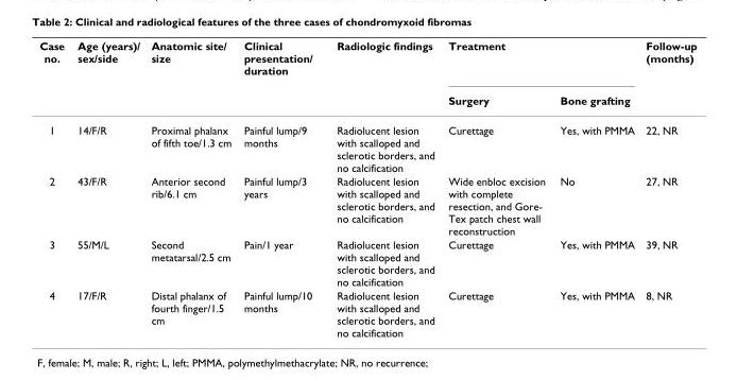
<table><thead><tr><td rowspan="2">Case no.</td><td rowspan="2">Age (years)/ sex/side</td><td rowspan="2">Anatomic site/ size</td><td rowspan="2">Clinical presentation/ duration</td><td rowspan="2">Radiologic findings</td><td colspan="2">Treatment</td><td rowspan="2">Follow-up (months)</td></tr><tr><td>Surgery</td><td>Bone grafting</td></tr></thead><tbody><tr><td>1</td><td>14/F/R</td><td>Proximal phalanx of fifth toe/1.3 cm</td><td>Painful lump/9 months</td><td>Radiolucent lesion with scalloped and sclerotic borders, and no calcification</td><td>Curettage</td><td>Yes, with PMMA</td><td>22, NR</td></tr><tr><td>2</td><td>43/F/R</td><td>Anterior second rib/6.1 cm</td><td>Painful lump/3 years</td><td>Radiolucent lesion with scalloped and sclerotic borders, and no calcification</td><td>Wide enbloc excision with complete resection, and Gore- Tex patch chest wall reconstruction</td><td>No</td><td>27, NR</td></tr><tr><td>3</td><td>55/M/L</td><td>Second metatarsal/2.5 cm</td><td>Pain/1 year</td><td>Radiolucent lesion with scalloped and sclerotic borders, and no calcification</td><td>Curettage</td><td>Yes, with PMMA</td><td>39, NR</td></tr><tr><td>4</td><td>17/F/R</td><td>Distal phalanx of fourth finger/1.5 cm</td><td>Painful lump/10 months</td><td>Radiolucent lesion with scalloped and sclerotic borders, and no calcification</td><td>Curettage</td><td>Yes, with PMMA</td><td>8, NR</td></tr></tbody></table>